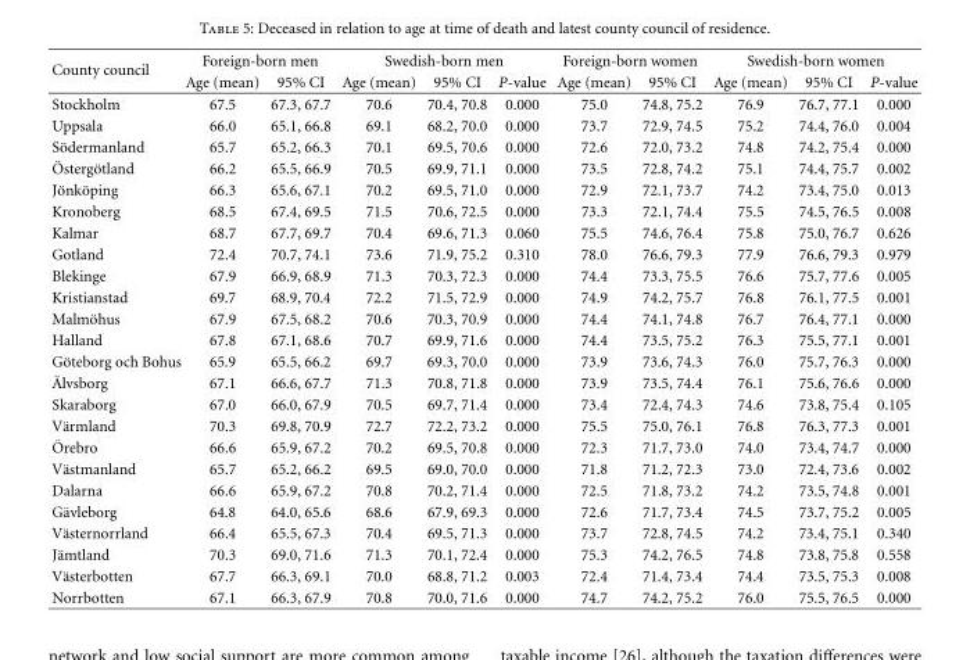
<table><thead><tr><td rowspan="2">County council</td><td colspan="2">Foreign-born men</td><td colspan="3">Swedish-born men</td><td colspan="2">Foreign-born women</td><td colspan="3">Swedish-born women</td></tr><tr><td>Age (mean)</td><td>95% CI</td><td>Age (mean)</td><td>95% CI</td><td>P-value</td><td>Age (mean)</td><td>95% CI</td><td>Age (mean)</td><td>95% CI</td><td>P-value</td></tr></thead><tbody><tr><td>Stockholm</td><td>67.5</td><td>67.3, 67.7</td><td>70.6</td><td>70.4, 70.8</td><td>0.000</td><td>75.0</td><td>74.8, 75.2</td><td>76.9</td><td>76.7, 77.1</td><td>0.000</td></tr><tr><td>Uppsala</td><td>66.0</td><td>65.1, 66.8</td><td>69.1</td><td>68.2, 70.0</td><td>0.000</td><td>73.7</td><td>72.9, 74.5</td><td>75.2</td><td>74.4, 76.0</td><td>0.004</td></tr><tr><td>S¨odermanland</td><td>65.7</td><td>65.2, 66.3</td><td>70.1</td><td>69.5, 70.6</td><td>0.000</td><td>72.6</td><td>72.0, 73.2</td><td>74.8</td><td>74.2, 75.4</td><td>0.000</td></tr><tr><td>¨Osterg¨otland</td><td>66.2</td><td>65.5, 66.9</td><td>70.5</td><td>69.9, 71.1</td><td>0.000</td><td>73.5</td><td>72.8, 74.2</td><td>75.1</td><td>74.4, 75.7</td><td>0.002</td></tr><tr><td>J¨onk¨oping</td><td>66.3</td><td>65.6, 67.1</td><td>70.2</td><td>69.5, 71.0</td><td>0.000</td><td>72.9</td><td>72.1, 73.7</td><td>74.2</td><td>73.4, 75.0</td><td>0.013</td></tr><tr><td>Kronoberg</td><td>68.5</td><td>67.4, 69.5</td><td>71.5</td><td>70.6, 72.5</td><td>0.000</td><td>73.3</td><td>72.1, 74.4</td><td>75.5</td><td>74.5, 76.5</td><td>0.008</td></tr><tr><td>Kalmar</td><td>68.7</td><td>67.7, 69.7</td><td>70.4</td><td>69.6, 71.3</td><td>0.060</td><td>75.5</td><td>74.6, 76.4</td><td>75.8</td><td>75.0, 76.7</td><td>0.626</td></tr><tr><td>Gotland</td><td>72.4</td><td>70.7, 74.1</td><td>73.6</td><td>71.9, 75.2</td><td>0.310</td><td>78.0</td><td>76.6, 79.3</td><td>77.9</td><td>76.6, 79.3</td><td>0.979</td></tr><tr><td>Blekinge</td><td>67.9</td><td>66.9, 68.9</td><td>71.3</td><td>70.3, 72.3</td><td>0.000</td><td>74.4</td><td>73.3, 75.5</td><td>76.6</td><td>75.7, 77.6</td><td>0.005</td></tr><tr><td>Kristianstad</td><td>69.7</td><td>68.9, 70.4</td><td>72.2</td><td>71.5, 72.9</td><td>0.000</td><td>74.9</td><td>74.2, 75.7</td><td>76.8</td><td>76.1, 77.5</td><td>0.001</td></tr><tr><td>Malm¨ohus</td><td>67.9</td><td>67.5, 68.2</td><td>70.6</td><td>70.3, 70.9</td><td>0.000</td><td>74.4</td><td>74.1, 74.8</td><td>76.7</td><td>76.4, 77.1</td><td>0.000</td></tr><tr><td>Halland</td><td>67.8</td><td>67.1, 68.6</td><td>70.7</td><td>69.9, 71.6</td><td>0.000</td><td>74.4</td><td>73.5, 75.2</td><td>76.3</td><td>75.5, 77.1</td><td>0.001</td></tr><tr><td>G¨oteborg och Bohus</td><td>65.9</td><td>65.5, 66.2</td><td>69.7</td><td>69.3, 70.0</td><td>0.000</td><td>73.9</td><td>73.6, 74.3</td><td>76.0</td><td>75.7, 76.3</td><td>0.000</td></tr><tr><td>¨Alvsborg</td><td>67.1</td><td>66.6, 67.7</td><td>71.3</td><td>70.8, 71.8</td><td>0.000</td><td>73.9</td><td>73.5, 74.4</td><td>76.1</td><td>75.6, 76.6</td><td>0.000</td></tr><tr><td>Skaraborg</td><td>67.0</td><td>66.0, 67.9</td><td>70.5</td><td>69.7, 71.4</td><td>0.000</td><td>73.4</td><td>72.4, 74.3</td><td>74.6</td><td>73.8, 75.4</td><td>0.105</td></tr><tr><td>V¨armland</td><td>70.3</td><td>69.8, 70.9</td><td>72.7</td><td>72.2, 73.2</td><td>0.000</td><td>75.5</td><td>75.0, 76.1</td><td>76.8</td><td>76.3, 77.3</td><td>0.001</td></tr><tr><td>¨Orebro</td><td>66.6</td><td>65.9, 67.2</td><td>70.2</td><td>69.5, 70.8</td><td>0.000</td><td>72.3</td><td>71.7, 73.0</td><td>74.0</td><td>73.4, 74.7</td><td>0.000</td></tr><tr><td>V¨astmanland</td><td>65.7</td><td>65.2, 66.2</td><td>69.5</td><td>69.0, 70.0</td><td>0.000</td><td>71.8</td><td>71.2, 72.3</td><td>73.0</td><td>72.4, 73.6</td><td>0.002</td></tr><tr><td>Dalarna</td><td>66.6</td><td>65.9, 67.2</td><td>70.8</td><td>70.2, 71.4</td><td>0.000</td><td>72.5</td><td>71.8, 73.2</td><td>74.2</td><td>73.5, 74.8</td><td>0.001</td></tr><tr><td>G¨avleborg</td><td>64.8</td><td>64.0, 65.6</td><td>68.6</td><td>67.9, 69.3</td><td>0.000</td><td>72.6</td><td>71.7, 73.4</td><td>74.5</td><td>73.7, 75.2</td><td>0.005</td></tr><tr><td>V¨asternorrland</td><td>66.4</td><td>65.5, 67.3</td><td>70.4</td><td>69.5, 71.3</td><td>0.000</td><td>73.7</td><td>72.8, 74.5</td><td>74.2</td><td>73.4, 75.1</td><td>0.340</td></tr><tr><td>J¨amtland</td><td>70.3</td><td>69.0, 71.6</td><td>71.3</td><td>70.1, 72.4</td><td>0.000</td><td>75.3</td><td>74.2, 76.5</td><td>74.8</td><td>73.8, 75.8</td><td>0.558</td></tr><tr><td>V¨asterbotten</td><td>67.7</td><td>66.3, 69.1</td><td>70.0</td><td>68.8, 71.2</td><td>0.003</td><td>72.4</td><td>71.4, 73.4</td><td>74.4</td><td>73.5, 75.3</td><td>0.008</td></tr><tr><td>Norrbotten</td><td>67.1</td><td>66.3, 67.9</td><td>70.8</td><td>70.0, 71.6</td><td>0.000</td><td>74.7</td><td>74.2, 75.2</td><td>76.0</td><td>75.5, 76.5</td><td>0.000</td></tr></tbody></table>